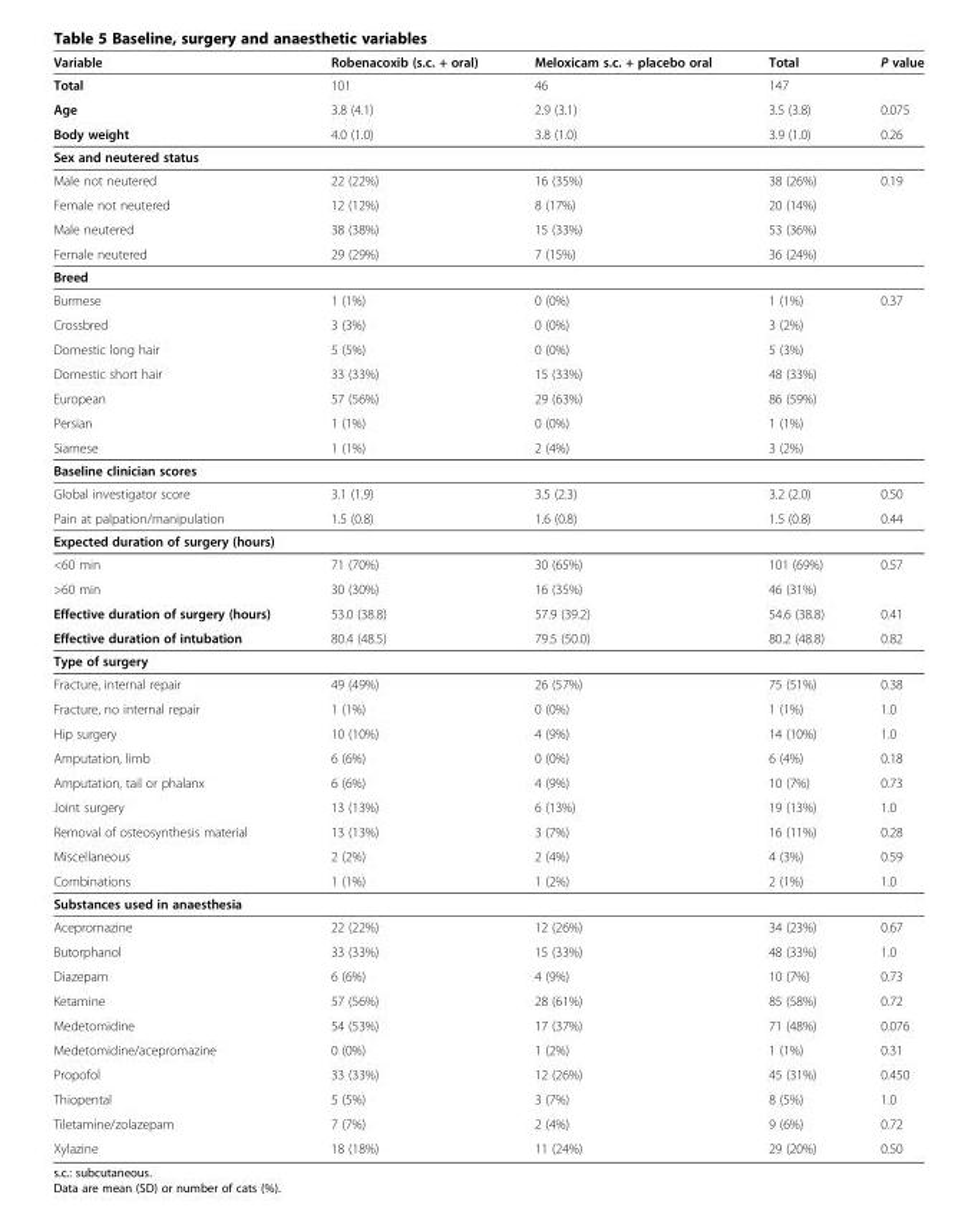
<table><thead><tr><td>Variable</td><td>Robenacoxib (s.c. + oral)</td><td>Meloxicam s.c. + placebo oral</td><td>Total</td><td>P value</td></tr></thead><tbody><tr><td>Total</td><td>101</td><td>46</td><td>147</td><td></td></tr><tr><td>Age</td><td>3.8 (4.1)</td><td>2.9 (3.1)</td><td>3.5 (3.8)</td><td>0.075</td></tr><tr><td>Body weight</td><td>4.0 (1.0)</td><td>3.8 (1.0)</td><td>3.9 (1.0)</td><td>0.26</td></tr><tr><td colspan="5">Sex and neutered status</td></tr><tr><td>Male not neutered</td><td>22 (22%)</td><td>16 (35%)</td><td>38 (26%)</td><td>0.19</td></tr><tr><td>Female not neutered</td><td>12 (12%)</td><td>8 (17%)</td><td>20 (14%)</td><td></td></tr><tr><td>Male neutered</td><td>38 (38%)</td><td>15 (33%)</td><td>53 (36%)</td><td></td></tr><tr><td>Female neutered</td><td>29 (29%)</td><td>7 (15%)</td><td>36 (24%)</td><td></td></tr><tr><td colspan="5">Breed</td></tr><tr><td>Burmese</td><td>1 (1%)</td><td>0 (0%)</td><td>1 (1%)</td><td>0.37</td></tr><tr><td>Crossbred</td><td>3 (3%)</td><td>0 (0%)</td><td>3 (2%)</td><td></td></tr><tr><td>Domestic long hair</td><td>5 (5%)</td><td>0 (0%)</td><td>5 (3%)</td><td></td></tr><tr><td>Domestic short hair</td><td>33 (33%)</td><td>15 (33%)</td><td>48 (33%)</td><td></td></tr><tr><td>European</td><td>57 (56%)</td><td>29 (63%)</td><td>86 (59%)</td><td></td></tr><tr><td>Persian</td><td>1 (1%)</td><td>0 (0%)</td><td>1 (1%)</td><td></td></tr><tr><td>Siamese</td><td>1 (1%)</td><td>2 (4%)</td><td>3 (2%)</td><td></td></tr><tr><td colspan="5">Baseline clinician scores</td></tr><tr><td>Global investigator score</td><td>3.1 (1.9)</td><td>3.5 (2.3)</td><td>3.2 (2.0)</td><td>0.50</td></tr><tr><td>Pain at palpation/manipulation</td><td>1.5 (0.8)</td><td>1.6 (0.8)</td><td>1.5 (0.8)</td><td>0.44</td></tr><tr><td colspan="5">Expected duration of surgery (hours)</td></tr><tr><td>&lt;60 min</td><td>71 (70%)</td><td>30 (65%)</td><td>101 (69%)</td><td>0.57</td></tr><tr><td>&gt;60 min</td><td>30 (30%)</td><td>16 (35%)</td><td>46 (31%)</td><td></td></tr><tr><td>Effective duration of surgery (hours)</td><td>53.0 (38.8)</td><td>57.9 (39.2)</td><td>54.6 (38.8)</td><td>0.41</td></tr><tr><td>Effective duration of intubation</td><td>80.4 (48.5)</td><td>79.5 (50.0)</td><td>80.2 (48.8)</td><td>0.82</td></tr><tr><td colspan="5">Type of surgery</td></tr><tr><td>Fracture, internal repair</td><td>49 (49%)</td><td>26 (57%)</td><td>75 (51%)</td><td>0.38</td></tr><tr><td>Fracture, no internal repair</td><td>1 (1%)</td><td>0 (0%)</td><td>1 (1%)</td><td>1.0</td></tr><tr><td>Hip surgery</td><td>10 (10%)</td><td>4 (9%)</td><td>14 (10%)</td><td>1.0</td></tr><tr><td>Amputation, limb</td><td>6 (6%)</td><td>0 (0%)</td><td>6 (4%)</td><td>0.18</td></tr><tr><td>Amputation, tail or phalanx</td><td>6 (6%)</td><td>4 (9%)</td><td>10 (7%)</td><td>0.73</td></tr><tr><td>Joint surgery</td><td>13 (13%)</td><td>6 (13%)</td><td>19 (13%)</td><td>1.0</td></tr><tr><td>Removal of osteosynthesis material</td><td>13 (13%)</td><td>3 (7%)</td><td>16 (11%)</td><td>0.28</td></tr><tr><td>Miscellaneous</td><td>2 (2%)</td><td>2 (4%)</td><td>4 (3%)</td><td>0.59</td></tr><tr><td>Combinations</td><td>1 (1%)</td><td>1 (2%)</td><td>2 (1%)</td><td>1.0</td></tr><tr><td colspan="5">Substances used in anaesthesia</td></tr><tr><td>Acepromazine</td><td>22 (22%)</td><td>12 (26%)</td><td>34 (23%)</td><td>0.67</td></tr><tr><td>Butorphanol</td><td>33 (33%)</td><td>15 (33%)</td><td>48 (33%)</td><td>1.0</td></tr><tr><td>Diazepam</td><td>6 (6%)</td><td>4 (9%)</td><td>10 (7%)</td><td>0.73</td></tr><tr><td>Ketamine</td><td>57 (56%)</td><td>28 (61%)</td><td>85 (58%)</td><td>0.72</td></tr><tr><td>Medetomidine</td><td>54 (53%)</td><td>17 (37%)</td><td>71 (48%)</td><td>0.076</td></tr><tr><td>Medetomidine/acepromazine</td><td>0 (0%)</td><td>1 (2%)</td><td>1 (1%)</td><td>0.31</td></tr><tr><td>Propofol</td><td>33 (33%)</td><td>12 (26%)</td><td>45 (31%)</td><td>0.450</td></tr><tr><td>Thiopental</td><td>5 (5%)</td><td>3 (7%)</td><td>8 (5%)</td><td>1.0</td></tr><tr><td>Tiletamine/zolazepam</td><td>7 (7%)</td><td>2 (4%)</td><td>9 (6%)</td><td>0.72</td></tr><tr><td>Xylazine</td><td>18 (18%)</td><td>11 (24%)</td><td>29 (20%)</td><td>0.50</td></tr></tbody></table>